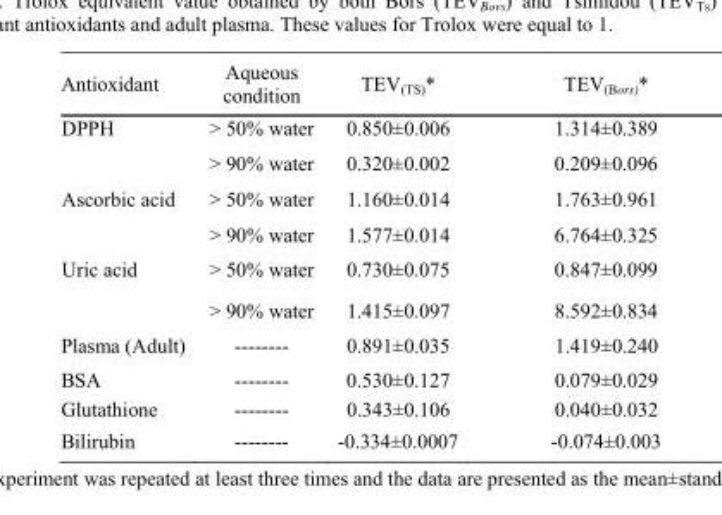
<table><thead><tr><td>Antioxidant</td><td>Aqueous condition</td><td>TEV<sub>(TS)</sub>*</td><td>TEV<sub>(Bors)</sub>*</td></tr></thead><tbody><tr><td rowspan="2">DPPH</td><td>&gt; 50% water</td><td>0.850±0.006</td><td>1.314±0.389</td></tr><tr><td>&gt; 90% water</td><td>0.320±0.002</td><td>0.209±0.096</td></tr><tr><td rowspan="2">Ascorbic acid</td><td>&gt; 50% water</td><td>1.160±0.014</td><td>1.763±0.961</td></tr><tr><td>&gt; 90% water</td><td>1.577±0.014</td><td>6.764±0.325</td></tr><tr><td rowspan="2">Uric acid</td><td>&gt; 50% water</td><td>0.730±0.075</td><td>0.847±0.099</td></tr><tr><td>&gt; 90% water</td><td>1.415±0.097</td><td>8.592±0.834</td></tr><tr><td>Plasma (Adult)</td><td>--------</td><td>0.891±0.035</td><td>1.419±0.240</td></tr><tr><td>BSA</td><td>--------</td><td>0.530±0.127</td><td>0.079±0.029</td></tr><tr><td>Glutathione</td><td>--------</td><td>0.343±0.106</td><td>0.040±0.032</td></tr><tr><td>Bilirubin</td><td>--------</td><td>-0.334±0.0007</td><td>-0.074±0.003</td></tr></tbody></table>